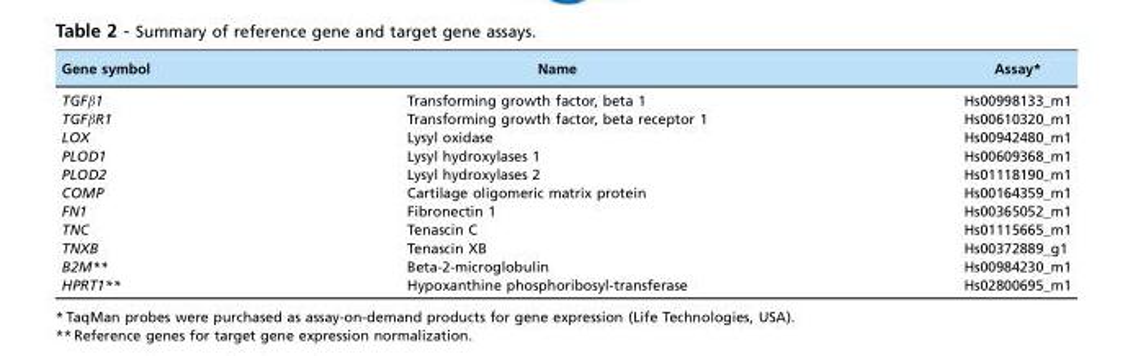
<table><thead><tr><td>Gene symbol</td><td>Name</td><td>Assay*</td></tr></thead><tbody><tr><td>TGFβ1</td><td>Transforming growth factor, beta 1</td><td>Hs00998133_m1</td></tr><tr><td>TGFβR1</td><td>Transforming growth factor, beta receptor 1</td><td>Hs00610320_m1</td></tr><tr><td>LOX</td><td>Lysyl oxidase</td><td>Hs00942480_m1</td></tr><tr><td>PLOD1</td><td>Lysyl hydroxylases 1</td><td>Hs00609368_m1</td></tr><tr><td>PLOD2</td><td>Lysyl hydroxylases 2</td><td>Hs01118190_m1</td></tr><tr><td>COMP</td><td>Cartilage oligomeric matrix protein</td><td>Hs00164359_m1</td></tr><tr><td>FN1</td><td>Fibronectin 1</td><td>Hs00365052_m1</td></tr><tr><td>TNC</td><td>Tenascin C</td><td>Hs01115665_m1</td></tr><tr><td>TNXB</td><td>Tenascin XB</td><td>Hs00372889_g1</td></tr><tr><td>B2M**</td><td>Beta-2-microglobulin</td><td>Hs00984230_m1</td></tr><tr><td>HPRT1**</td><td>Hypoxanthine phosphoribosyl-transferase</td><td>Hs02800695_m1</td></tr></tbody></table>